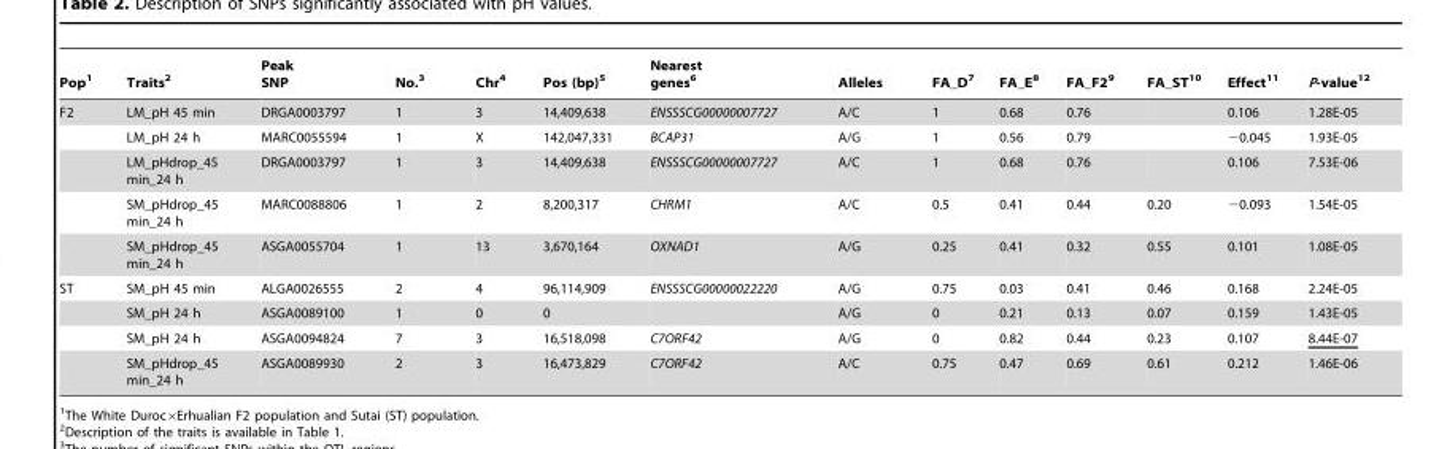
<table><thead><tr><td>Pop<sup>1</sup></td><td>Traits<sup>2</sup></td><td>Peak SNP</td><td>No.<sup>3</sup></td><td>Chr<sup>4</sup></td><td>Pos (bp)<sup>5</sup></td><td>Nearest genes<sup>6</sup></td><td>Alleles</td><td>FA_D<sup>7</sup></td><td>FA_E<sup>8</sup></td><td>FA_F2<sup>9</sup></td><td>FA_ST<sup>10</sup></td><td>Effect<sup>11</sup></td><td>P-value<sup>12</sup></td></tr></thead><tbody><tr><td rowspan="5">F2</td><td>LM_pH 45 min</td><td>DRGA0003797</td><td>1</td><td>3</td><td>14,409,638</td><td>ENSSSCG00000007727</td><td>A/C</td><td>1</td><td>0.68</td><td>0.76</td><td></td><td>0.106</td><td>1.28E-05</td></tr><tr><td>LM_pH 24 h</td><td>MARC0055594</td><td>1</td><td>X</td><td>142,047,331</td><td>BCAP31</td><td>A/G</td><td>1</td><td>0.56</td><td>0.79</td><td></td><td>−0.045</td><td>1.93E-05</td></tr><tr><td>LM_pHdrop_45 min_24 h</td><td>DRGA0003797</td><td>1</td><td>3</td><td>14,409,638</td><td>ENSSSCG00000007727</td><td>A/C</td><td>1</td><td>0.68</td><td>0.76</td><td></td><td>0.106</td><td>7.53E-06</td></tr><tr><td>SM_pHdrop_45 min_24 h</td><td>MARC0088806</td><td>1</td><td>2</td><td>8,200,317</td><td>CHRM1</td><td>A/C</td><td>0.5</td><td>0.41</td><td>0.44</td><td>0.20</td><td>−0.093</td><td>1.54E-05</td></tr><tr><td>SM_pHdrop_45 min_24 h</td><td>ASGA0055704</td><td>1</td><td>13</td><td>3,670,164</td><td>OXNAD1</td><td>A/G</td><td>0.25</td><td>0.41</td><td>0.32</td><td>0.55</td><td>0.101</td><td>1.08E-05</td></tr><tr><td rowspan="4">ST</td><td>SM_pH 45 min</td><td>ALGA0026555</td><td>2</td><td>4</td><td>96,114,909</td><td>ENSSSCG00000022220</td><td>A/G</td><td>0.75</td><td>0.03</td><td>0.41</td><td>0.46</td><td>0.168</td><td>2.24E-05</td></tr><tr><td>SM_pH 24 h</td><td>ASGA0089100</td><td>1</td><td>0</td><td>0</td><td></td><td>A/G</td><td>0</td><td>0.21</td><td>0.13</td><td>0.07</td><td>0.159</td><td>1.43E-05</td></tr><tr><td>SM_pH 24 h</td><td>ASGA0094824</td><td>7</td><td>3</td><td>16,518,098</td><td>C7ORF42</td><td>A/G</td><td>0</td><td>0.82</td><td>0.44</td><td>0.23</td><td>0.107</td><td>8.44E-07</td></tr><tr><td>SM_pHdrop_45 min_24 h</td><td>ASGA0089930</td><td>2</td><td>3</td><td>16,473,829</td><td>C7ORF42</td><td>A/C</td><td>0.75</td><td>0.47</td><td>0.69</td><td>0.61</td><td>0.212</td><td>1.46E-06</td></tr></tbody></table>